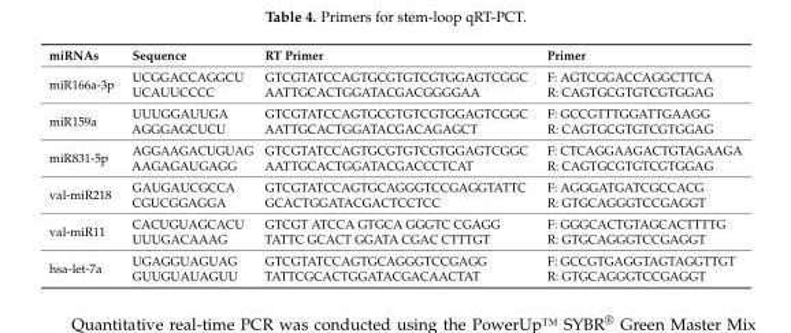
<table><thead><tr><td>miRNAs</td><td>Sequence</td><td>RT Primer</td><td>Primer</td></tr></thead><tbody><tr><td>miR166a-3p</td><td>UCGGACCAGGCU UCAUUCCCC</td><td>GTCGTATCCAGTGCGTGTCGTGGAGTCGGC AATTGCACTGGATACGACGGGGAA</td><td>F: AGTCGGACCAGGCTTCA R: CAGTGCGTGTCGTGGAG</td></tr><tr><td>miR159a</td><td>UUUGGAUUGA AGGGAGCUCU</td><td>GTCGTATCCAGTGCGTGTCGTGGAGTCGGC AATTGCACTGGATACGACAGAGCT</td><td>F: GCCGTTTGGATTGAAGG R: CAGTGCGTGTCGTGGAG</td></tr><tr><td>miR831-5p</td><td>AGGAAGACUGUAG AAGAGAUGAGG</td><td>GTCGTATCCAGTGCGTGTCGTGGAGTCGGC AATTGCACTGGATACGACCCTCAT</td><td>F: CTCAGGAAGACTGTAGAAGA R: CAGTGCGTGTCGTGGAG</td></tr><tr><td>val-miR218</td><td>GAUGAUCGCCA CGUCGGAGGA</td><td>GTCGTATCCAGTGCAGGGTCCGAGGTATTC GCACTGGATACGACTCCTCC</td><td>F: AGGGATGATCGCCACG R: GTGCAGGGTCCGAGGT</td></tr><tr><td>val-miR11</td><td>CACUGUAGCACU UUUGACAAAG</td><td>GTCGT ATCCA GTGCA GGGTC CGAGG TATTC GCACT GGATA CGAC CTTTGT</td><td>F: GGGCACTGTAGCACTTTTG R: GTGCAGGGTCCGAGGT</td></tr><tr><td>hsa-let-7a</td><td>UGAGGUAGUAG GUUGUAUAGUU</td><td>GTCGTATCCAGTGCAGGGTCCGAGG TATTCGCACTGGATACGACAACTAT</td><td>F: GCCGTGAGGTAGTAGGTTGT R: GTGCAGGGTCCGAGGT</td></tr></tbody></table>